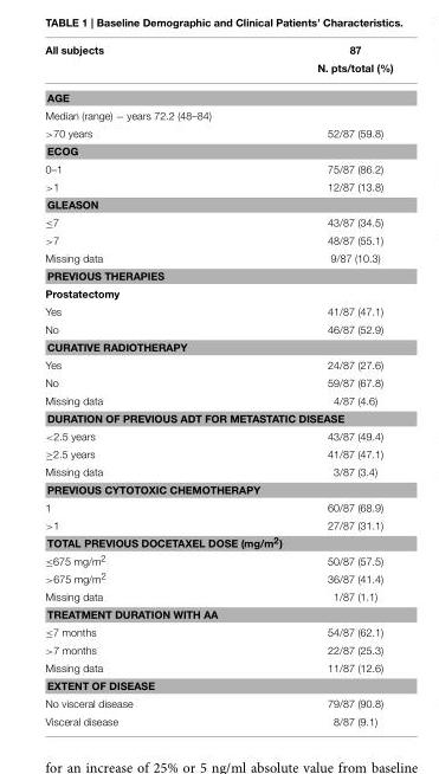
<table><thead><tr><td>All subjects</td><td>87 N. pts/total (%)</td></tr></thead><tbody><tr><td colspan="2">AGE</td></tr><tr><td colspan="2">Median (range) − years 72.2 (48–84)</td></tr><tr><td>&gt;70 years</td><td>52/87 (59.8)</td></tr><tr><td colspan="2">ECOG</td></tr><tr><td>0–1</td><td>75/87 (86.2)</td></tr><tr><td>&gt;1</td><td>12/87 (13.8)</td></tr><tr><td colspan="2">GLEASON</td></tr><tr><td>≤7</td><td>43/87 (34.5)</td></tr><tr><td>&gt;7</td><td>48/87 (55.1)</td></tr><tr><td>Missing data</td><td>9/87 (10.3)</td></tr><tr><td colspan="2">PREVIOUS THERAPIES</td></tr><tr><td colspan="2">Prostatectomy</td></tr><tr><td>Yes</td><td>41/87 (47.1)</td></tr><tr><td>No</td><td>46/87 (52.9)</td></tr><tr><td colspan="2">CURATIVE RADIOTHERAPY</td></tr><tr><td>Yes</td><td>24/87 (27.6)</td></tr><tr><td>No</td><td>59/87 (67.8)</td></tr><tr><td>Missing data</td><td>4/87 (4.6)</td></tr><tr><td colspan="2">DURATION OF PREVIOUS ADT FOR METASTATIC DISEASE</td></tr><tr><td>&lt;2.5 years</td><td>43/87 (49.4)</td></tr><tr><td>≥2.5 years</td><td>41/87 (47.1)</td></tr><tr><td>Missing data</td><td>3/87 (3.4)</td></tr><tr><td colspan="2">PREVIOUS CYTOTOXIC CHEMOTHERAPY</td></tr><tr><td>1</td><td>60/87 (68.9)</td></tr><tr><td>&gt;1</td><td>27/87 (31.1)</td></tr><tr><td colspan="2">TOTAL PREVIOUS DOCETAXEL DOSE (mg/m<sup>2</sup>)</td></tr><tr><td>≤675 mg/m<sup>2</sup></td><td>50/87 (57.5)</td></tr><tr><td>&gt;675 mg/m<sup>2</sup></td><td>36/87 (41.4)</td></tr><tr><td>Missing data</td><td>1/87 (1.1)</td></tr><tr><td colspan="2">TREATMENT DURATION WITH AA</td></tr><tr><td>≤7 months</td><td>54/87 (62.1)</td></tr><tr><td>&gt;7 months</td><td>22/87 (25.3)</td></tr><tr><td>Missing data</td><td>11/87 (12.6)</td></tr><tr><td colspan="2">EXTENT OF DISEASE</td></tr><tr><td>No visceral disease</td><td>79/87 (90.8)</td></tr><tr><td>Visceral disease</td><td>8/87 (9.1)</td></tr></tbody></table>